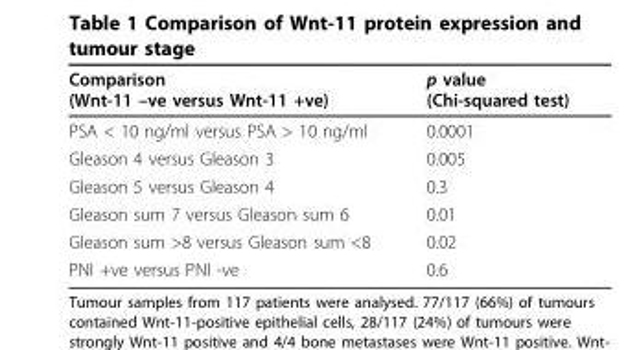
<table><thead><tr><td>Comparison (Wnt-11 –ve versus Wnt-11 +ve)</td><td>p value (Chi-squared test)</td></tr></thead><tbody><tr><td>PSA &lt; 10 ng/ml versus PSA &gt; 10 ng/ml</td><td>0.0001</td></tr><tr><td>Gleason 4 versus Gleason 3</td><td>0.005</td></tr><tr><td>Gleason 5 versus Gleason 4</td><td>0.3</td></tr><tr><td>Gleason sum 7 versus Gleason sum 6</td><td>0.01</td></tr><tr><td>Gleason sum &gt;8 versus Gleason sum &lt;8</td><td>0.02</td></tr><tr><td>PNI +ve versus PNI -ve</td><td>0.6</td></tr></tbody></table>